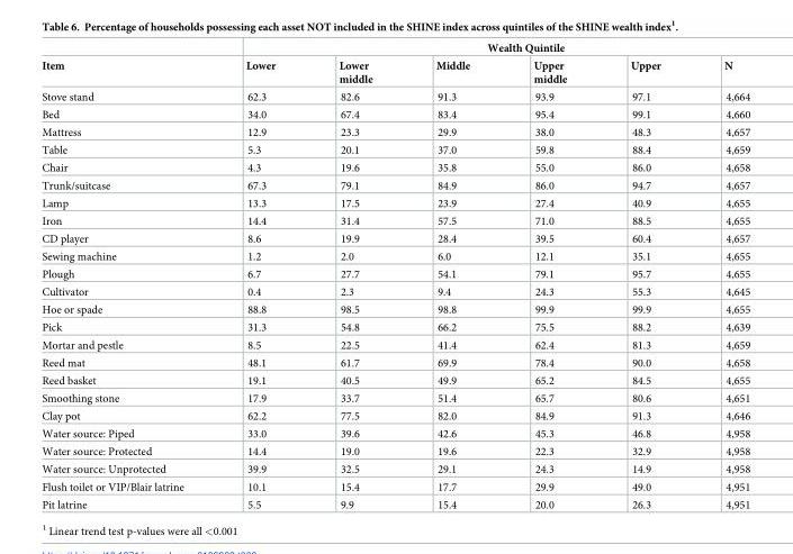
<table><thead><tr><td rowspan="2">Item</td><td colspan="6">Wealth Quintile</td></tr><tr><td>Lower</td><td>Lower middle</td><td>Middle</td><td>Upper middle</td><td>Upper</td><td>N</td></tr></thead><tbody><tr><td>Stove stand</td><td>62.3</td><td>82.6</td><td>91.3</td><td>93.9</td><td>97.1</td><td>4,664</td></tr><tr><td>Bed</td><td>34.0</td><td>67.4</td><td>83.4</td><td>95.4</td><td>99.1</td><td>4,660</td></tr><tr><td>Mattress</td><td>12.9</td><td>23.3</td><td>29.9</td><td>38.0</td><td>48.3</td><td>4,657</td></tr><tr><td>Table</td><td>5.3</td><td>20.1</td><td>37.0</td><td>59.8</td><td>88.4</td><td>4,659</td></tr><tr><td>Chair</td><td>4.3</td><td>19.6</td><td>35.8</td><td>55.0</td><td>86.0</td><td>4,658</td></tr><tr><td>Trunk/suitcase</td><td>67.3</td><td>79.1</td><td>84.9</td><td>86.0</td><td>94.7</td><td>4,657</td></tr><tr><td>Lamp</td><td>13.3</td><td>17.5</td><td>23.9</td><td>27.4</td><td>40.9</td><td>4,655</td></tr><tr><td>Iron</td><td>14.4</td><td>31.4</td><td>57.5</td><td>71.0</td><td>88.5</td><td>4,655</td></tr><tr><td>CD player</td><td>8.6</td><td>19.9</td><td>28.4</td><td>39.5</td><td>60.4</td><td>4,657</td></tr><tr><td>Sewing machine</td><td>1.2</td><td>2.0</td><td>6.0</td><td>12.1</td><td>35.1</td><td>4,655</td></tr><tr><td>Plough</td><td>6.7</td><td>27.7</td><td>54.1</td><td>79.1</td><td>95.7</td><td>4,655</td></tr><tr><td>Cultivator</td><td>0.4</td><td>2.3</td><td>9.4</td><td>24.3</td><td>55.3</td><td>4,645</td></tr><tr><td>Hoe or spade</td><td>88.8</td><td>98.5</td><td>98.8</td><td>99.9</td><td>99.9</td><td>4,655</td></tr><tr><td>Pick</td><td>31.3</td><td>54.8</td><td>66.2</td><td>75.5</td><td>88.2</td><td>4,639</td></tr><tr><td>Mortar and pestle</td><td>8.5</td><td>22.5</td><td>41.4</td><td>62.4</td><td>81.3</td><td>4,659</td></tr><tr><td>Reed mat</td><td>48.1</td><td>61.7</td><td>69.9</td><td>78.4</td><td>90.0</td><td>4,658</td></tr><tr><td>Reed basket</td><td>19.1</td><td>40.5</td><td>49.9</td><td>65.2</td><td>84.5</td><td>4,655</td></tr><tr><td>Smoothing stone</td><td>17.9</td><td>33.7</td><td>51.4</td><td>65.7</td><td>80.6</td><td>4,651</td></tr><tr><td>Clay pot</td><td>62.2</td><td>77.5</td><td>82.0</td><td>84.9</td><td>91.3</td><td>4,646</td></tr><tr><td>Water source: Piped</td><td>33.0</td><td>39.6</td><td>42.6</td><td>45.3</td><td>46.8</td><td>4,958</td></tr><tr><td>Water source: Protected</td><td>14.4</td><td>19.0</td><td>19.6</td><td>22.3</td><td>32.9</td><td>4,958</td></tr><tr><td>Water source: Unprotected</td><td>39.9</td><td>32.5</td><td>29.1</td><td>24.3</td><td>14.9</td><td>4,958</td></tr><tr><td>Flush toilet or VIP/Blair latrine</td><td>10.1</td><td>15.4</td><td>17.7</td><td>29.9</td><td>49.0</td><td>4,951</td></tr><tr><td>Pit latrine</td><td>5.5</td><td>9.9</td><td>15.4</td><td>20.0</td><td>26.3</td><td>4,951</td></tr></tbody></table>